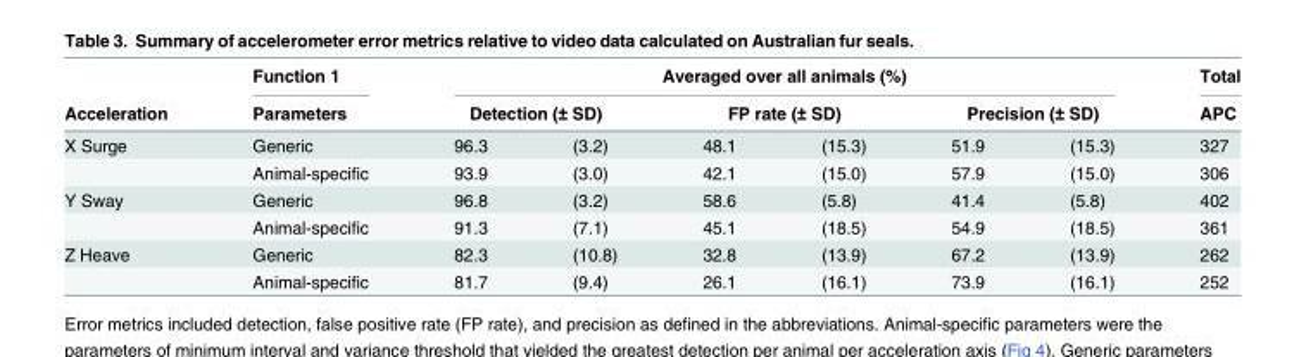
<table><thead><tr><td rowspan="3">Acceleration X Surge</td><td rowspan="3">Function 1 Parameters Generic</td><td colspan="6">Averaged over all animals (%)</td><td rowspan="3">Total APC 327</td></tr><tr><td colspan="2">Detection (± SD)</td><td colspan="2">FP rate (± SD)</td><td colspan="2">Precision (± SD)</td></tr><tr><td>96.3</td><td>(3.2)</td><td>48.1</td><td>(15.3)</td><td>51.9</td><td>(15.3)</td></tr></thead><tbody><tr><td></td><td>Animal-specific</td><td>93.9</td><td>(3.0)</td><td>42.1</td><td>(15.0)</td><td>57.9</td><td>(15.0)</td><td>306</td></tr><tr><td rowspan="2">Y Sway</td><td>Generic</td><td>96.8</td><td>(3.2)</td><td>58.6</td><td>(5.8)</td><td>41.4</td><td>(5.8)</td><td>402</td></tr><tr><td>Animal-specific</td><td>91.3</td><td>(7.1)</td><td>45.1</td><td>(18.5)</td><td>54.9</td><td>(18.5)</td><td>361</td></tr><tr><td rowspan="2">Z Heave</td><td>Generic</td><td>82.3</td><td>(10.8)</td><td>32.8</td><td>(13.9)</td><td>67.2</td><td>(13.9)</td><td>262</td></tr><tr><td>Animal-specific</td><td>81.7</td><td>(9.4)</td><td>26.1</td><td>(16.1)</td><td>73.9</td><td>(16.1)</td><td>252</td></tr></tbody></table>